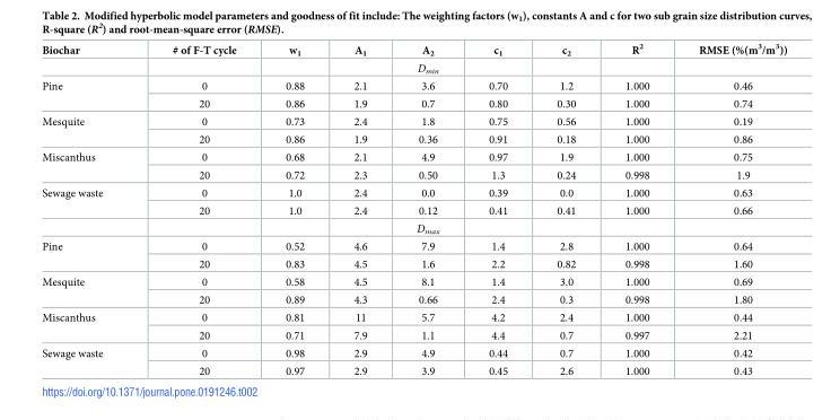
<table><thead><tr><td>Biochar</td><td># of F-T cycle</td><td>w<sub>1</sub></td><td>A<sub>1</sub></td><td>A<sub>2</sub></td><td>c<sub>1</sub></td><td>c<sub>2</sub></td><td>R<sup>2</sup></td><td>RMSE (%(m<sup>3</sup>/m<sup>3</sup>))</td></tr></thead><tbody><tr><td></td><td></td><td></td><td></td><td>D<sub>min</sub></td><td></td><td></td><td></td><td></td></tr><tr><td rowspan="2">Pine</td><td>0</td><td>0.88</td><td>2.1</td><td>3.6</td><td>0.70</td><td>1.2</td><td>1.000</td><td>0.46</td></tr><tr><td>20</td><td>0.86</td><td>1.9</td><td>0.7</td><td>0.80</td><td>0.30</td><td>1.000</td><td>0.74</td></tr><tr><td rowspan="2">Mesquite</td><td>0</td><td>0.73</td><td>2.4</td><td>1.8</td><td>0.75</td><td>0.56</td><td>1.000</td><td>0.19</td></tr><tr><td>20</td><td>0.86</td><td>1.9</td><td>0.36</td><td>0.91</td><td>0.18</td><td>1.000</td><td>0.86</td></tr><tr><td rowspan="2">Miscanthus</td><td>0</td><td>0.68</td><td>2.1</td><td>4.9</td><td>0.97</td><td>1.9</td><td>1.000</td><td>0.75</td></tr><tr><td>20</td><td>0.72</td><td>2.3</td><td>0.50</td><td>1.3</td><td>0.24</td><td>0.998</td><td>1.9</td></tr><tr><td rowspan="3">Sewage waste</td><td>0</td><td>1.0</td><td>2.4</td><td>0.0</td><td>0.39</td><td>0.0</td><td>1.000</td><td>0.63</td></tr><tr><td>20</td><td>1.0</td><td>2.4</td><td>0.12</td><td>0.41</td><td>0.41</td><td>1.000</td><td>0.66</td></tr><tr><td></td><td></td><td></td><td>D<sub>max</sub></td><td></td><td></td><td></td><td></td></tr><tr><td rowspan="2">Pine</td><td>0</td><td>0.52</td><td>4.6</td><td>7.9</td><td>1.4</td><td>2.8</td><td>1.000</td><td>0.64</td></tr><tr><td>20</td><td>0.83</td><td>4.5</td><td>1.6</td><td>2.2</td><td>0.82</td><td>0.998</td><td>1.60</td></tr><tr><td rowspan="2">Mesquite</td><td>0</td><td>0.58</td><td>4.5</td><td>8.1</td><td>1.4</td><td>3.0</td><td>1.000</td><td>0.69</td></tr><tr><td>20</td><td>0.89</td><td>4.3</td><td>0.66</td><td>2.4</td><td>0.3</td><td>0.998</td><td>1.80</td></tr><tr><td rowspan="2">Miscanthus</td><td>0</td><td>0.81</td><td>11</td><td>5.7</td><td>4.2</td><td>2.4</td><td>1.000</td><td>0.44</td></tr><tr><td>20</td><td>0.71</td><td>7.9</td><td>1.1</td><td>4.4</td><td>0.7</td><td>0.997</td><td>2.21</td></tr><tr><td rowspan="2">Sewage waste</td><td>0</td><td>0.98</td><td>2.9</td><td>4.9</td><td>0.44</td><td>0.7</td><td>1.000</td><td>0.42</td></tr><tr><td>20</td><td>0.97</td><td>2.9</td><td>3.9</td><td>0.45</td><td>2.6</td><td>1.000</td><td>0.43</td></tr></tbody></table>